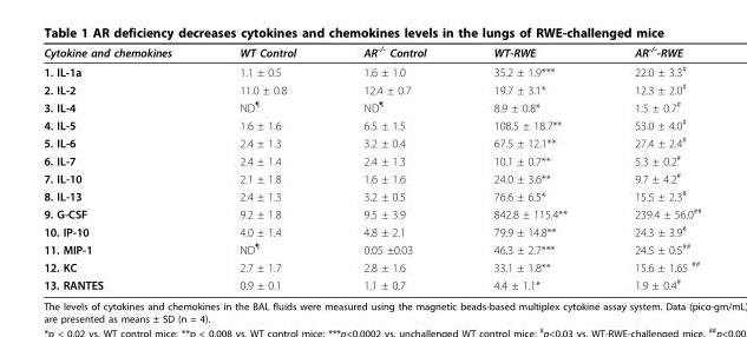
<table><thead><tr><td>Cytokine and chemokines</td><td>WT Control</td><td>AR<sup>-/-</sup> Control</td><td>WT-RWE</td><td>AR<sup>-/-</sup>-RWE</td></tr></thead><tbody><tr><td>1. IL-1a</td><td>1.1 ± 0.5</td><td>1.6 ± 1.0</td><td>35.2 ± 1.9***</td><td>22.0 ± 3.3<sup>#</sup></td></tr><tr><td>2. IL-2</td><td>11.0 ± 0.8</td><td>12.4 ± 0.7</td><td>19.7 ± 3.1*</td><td>12.3 ± 2.0<sup>#</sup></td></tr><tr><td>3. IL-4</td><td>ND<sup>¶</sup></td><td>ND<sup>¶</sup></td><td>8.9 ± 0.8*</td><td>1.5 ± 0.7<sup>#</sup></td></tr><tr><td>4. IL-5</td><td>1.6 ± 1.6</td><td>6.5 ± 1.5</td><td>108.5 ± 18.7**</td><td>53.0 ± 4.0<sup>#</sup></td></tr><tr><td>5. IL-6</td><td>2.4 ± 1.3</td><td>3.2 ± 0.4</td><td>67.5 ± 12.1**</td><td>27.4 ± 2.4<sup>#</sup></td></tr><tr><td>6. IL-7</td><td>2.4 ± 1.4</td><td>2.4 ± 1.3</td><td>10.1 ± 0.7**</td><td>5.3 ± 0.2<sup>#</sup></td></tr><tr><td>7. IL-10</td><td>2.1 ± 1.8</td><td>1.6 ± 1.6</td><td>24.0 ± 3.6**</td><td>9.7 ± 4.2<sup>#</sup></td></tr><tr><td>8. IL-13</td><td>2.4 ± 1.3</td><td>3.2 ± 0.5</td><td>76.6 ± 6.5*</td><td>15.5 ± 2.3<sup>#</sup></td></tr><tr><td>9. G-CSF</td><td>9.2 ± 1.8</td><td>9.5 ± 3.9</td><td>842.8 ± 115.4**</td><td>239.4 ± 56.0<sup>##</sup></td></tr><tr><td>10. IP-10</td><td>4.0 ± 1.4</td><td>4.8 ± 2.1</td><td>79.9 ± 14.8**</td><td>24.3 ± 3.9<sup>#</sup></td></tr><tr><td>11. MIP-1</td><td>ND<sup>¶</sup></td><td>0.05 ±0.03</td><td>46.3 ± 2.7***</td><td>24.5 ± 0.5<sup>##</sup></td></tr><tr><td>12. KC</td><td>2.7 ± 1.7</td><td>2.8 ± 1.6</td><td>33.1 ± 1.8**</td><td>15.6 ± 1.65 <sup>##</sup></td></tr><tr><td>13. RANTES</td><td>0.9 ± 0.1</td><td>1.1 ± 0.7</td><td>4.4 ± 1.1*</td><td>1.9 ± 0.4<sup>#</sup></td></tr></tbody></table>